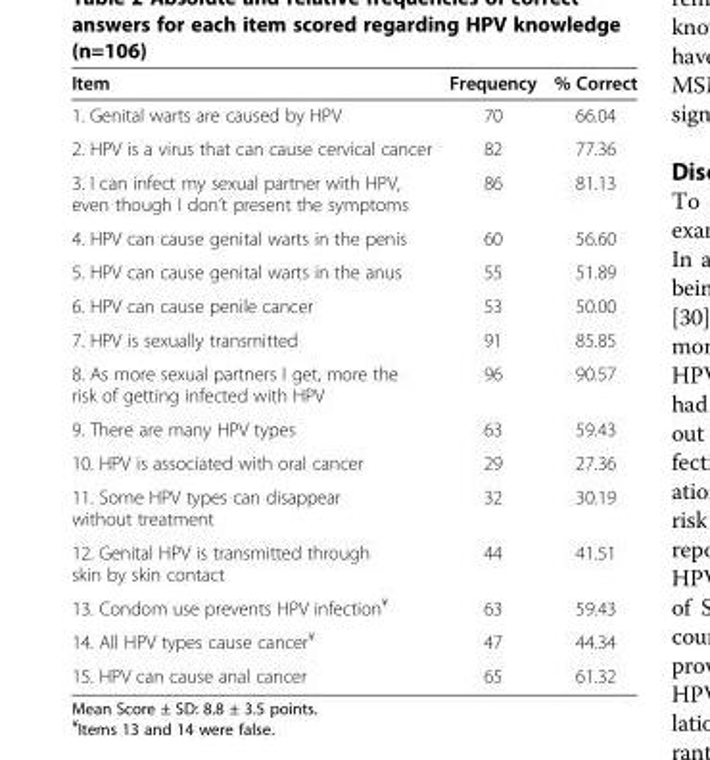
<table><thead><tr><td>Item</td><td>Frequency</td><td>% Correct</td></tr></thead><tbody><tr><td>1. Genital warts are caused by HPV</td><td>70</td><td>66.04</td></tr><tr><td>2. HPV is a virus that can cause cervical cancer</td><td>82</td><td>77.36</td></tr><tr><td>3. I can infect my sexual partner with HPV, even though I don’t present the symptoms</td><td>86</td><td>81.13</td></tr><tr><td>4. HPV can cause genital warts in the penis</td><td>60</td><td>56.60</td></tr><tr><td>5. HPV can cause genital warts in the anus</td><td>55</td><td>51.89</td></tr><tr><td>6. HPV can cause penile cancer</td><td>53</td><td>50.00</td></tr><tr><td>7. HPV is sexually transmitted</td><td>91</td><td>85.85</td></tr><tr><td>8. As more sexual partners I get, more the risk of getting infected with HPV</td><td>96</td><td>90.57</td></tr><tr><td>9. There are many HPV types</td><td>63</td><td>59.43</td></tr><tr><td>10. HPV is associated with oral cancer</td><td>29</td><td>27.36</td></tr><tr><td>11. Some HPV types can disappear without treatment</td><td>32</td><td>30.19</td></tr><tr><td>12. Genital HPV is transmitted through skin by skin contact</td><td>44</td><td>41.51</td></tr><tr><td>13. Condom use prevents HPV infection<sup>¥</sup></td><td>63</td><td>59.43</td></tr><tr><td>14. All HPV types cause cancer<sup>¥</sup></td><td>47</td><td>44.34</td></tr><tr><td>15. HPV can cause anal cancer</td><td>65</td><td>61.32</td></tr></tbody></table>